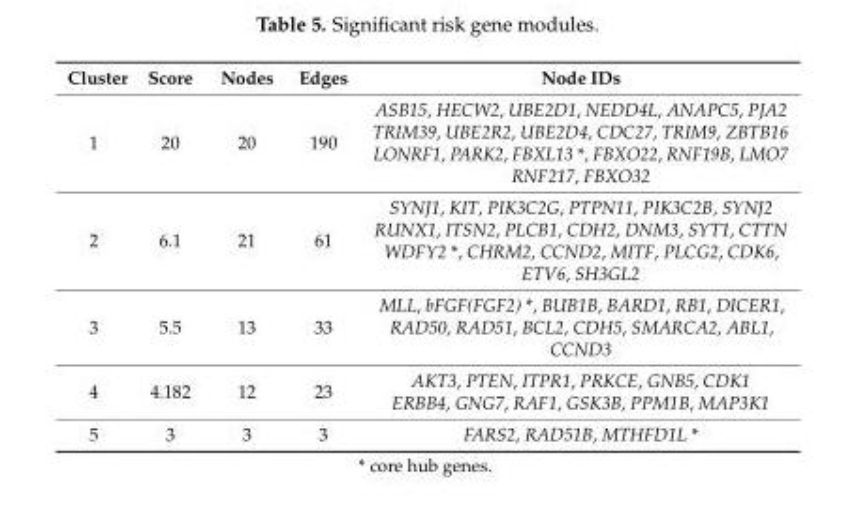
<table><thead><tr><td>Cluster</td><td>Score</td><td>Nodes</td><td>Edges</td><td>Node IDs</td></tr></thead><tbody><tr><td>1</td><td>20</td><td>20</td><td>190</td><td>ASB15, HECW2, UBE2D1, NEDD4L, ANAPC5, PJA2 TRIM39, UBE2R2, UBE2D4, CDC27, TRIM9, ZBTB16 LONRF1, PARK2, FBXL13 *, FBXO22, RNF19B, LMO7 RNF217, FBXO32</td></tr><tr><td>2</td><td>6.1</td><td>21</td><td>61</td><td>SYNJ1, KIT, PIK3C2G, PTPN11, PIK3C2B, SYNJ2 RUNX1, ITSN2, PLCB1, CDH2, DNM3, SYT1, CTTN WDFY2 *, CHRM2, CCND2, MITF, PLCG2, CDK6, ETV6, SH3GL2</td></tr><tr><td>3</td><td>5.5</td><td>13</td><td>33</td><td>MLL, bFGF(FGF2) *, BUB1B, BARD1, RB1, DICER1, RAD50, RAD51, BCL2, CDH5, SMARCA2, ABL1, CCND3</td></tr><tr><td>4</td><td>4.182</td><td>12</td><td>23</td><td>AKT3, PTEN, ITPR1, PRKCE, GNB5, CDK1 ERBB4, GNG7, RAF1, GSK3B, PPM1B, MAP3K1</td></tr><tr><td>5</td><td>3</td><td>3</td><td>3</td><td>FARS2, RAD51B, MTHFD1L *</td></tr></tbody></table>